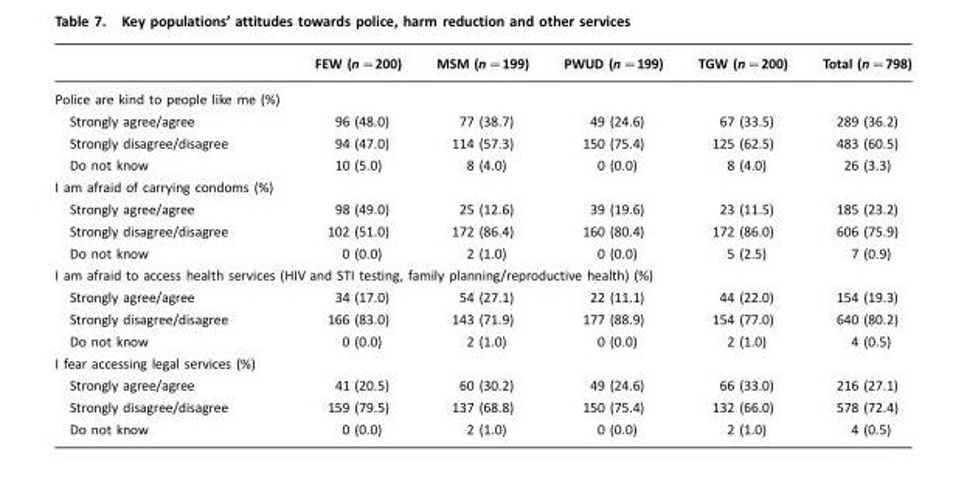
<table><thead><tr><td></td><td>FEW (n=200)</td><td>MSM (n=199)</td><td>PWUD (n=199)</td><td>TGW (n=200)</td><td>Total (n=798)</td></tr></thead><tbody><tr><td colspan="6">Police are kind to people like me (%)</td></tr><tr><td>Strongly agree/agree</td><td>96 (48.0)</td><td>77 (38.7)</td><td>49 (24.6)</td><td>67 (33.5)</td><td>289 (36.2)</td></tr><tr><td>Strongly disagree/disagree</td><td>94 (47.0)</td><td>114 (57.3)</td><td>150 (75.4)</td><td>125 (62.5)</td><td>483 (60.5)</td></tr><tr><td>Do not know</td><td>10 (5.0)</td><td>8 (4.0)</td><td>0 (0.0)</td><td>8 (4.0)</td><td>26 (3.3)</td></tr><tr><td colspan="6">I am afraid of carrying condoms (%)</td></tr><tr><td>Strongly agree/agree</td><td>98 (49.0)</td><td>25 (12.6)</td><td>39 (19.6)</td><td>23 (11.5)</td><td>185 (23.2)</td></tr><tr><td>Strongly disagree/disagree</td><td>102 (51.0)</td><td>172 (86.4)</td><td>160 (80.4)</td><td>172 (86.0)</td><td>606 (75.9)</td></tr><tr><td>Do not know</td><td>0 (0.0)</td><td>2 (1.0)</td><td>0 (0.0)</td><td>5 (2.5)</td><td>7 (0.9)</td></tr><tr><td colspan="6">I am afraid to access health services (HIV and STI testing, family planning/reproductive health) (%)</td></tr><tr><td>Strongly agree/agree</td><td>34 (17.0)</td><td>54 (27.1)</td><td>22 (11.1)</td><td>44 (22.0)</td><td>154 (19.3)</td></tr><tr><td>Strongly disagree/disagree</td><td>166 (83.0)</td><td>143 (71.9)</td><td>177 (88.9)</td><td>154 (77.0)</td><td>640 (80.2)</td></tr><tr><td>Do not know</td><td>0 (0.0)</td><td>2 (1.0)</td><td>0 (0.0)</td><td>2 (1.0)</td><td>4 (0.5)</td></tr><tr><td colspan="6">I fear accessing legal services (%)</td></tr><tr><td>Strongly agree/agree</td><td>41 (20.5)</td><td>60 (30.2)</td><td>49 (24.6)</td><td>66 (33.0)</td><td>216 (27.1)</td></tr><tr><td>Strongly disagree/disagree</td><td>159 (79.5)</td><td>137 (68.8)</td><td>150 (75.4)</td><td>132 (66.0)</td><td>578 (72.4)</td></tr><tr><td>Do not know</td><td>0 (0.0)</td><td>2 (1.0)</td><td>0 (0.0)</td><td>2 (1.0)</td><td>4 (0.5)</td></tr></tbody></table>